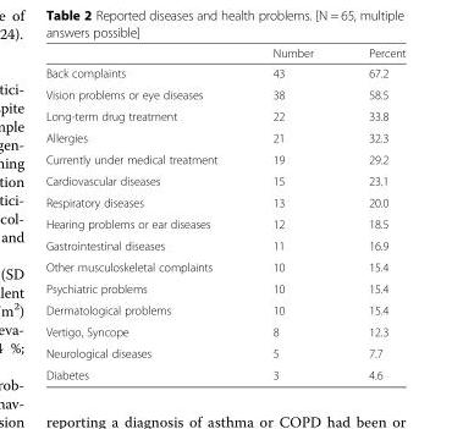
<table><thead><tr><td></td><td>Number</td><td>Percent</td></tr></thead><tbody><tr><td>Back complaints</td><td>43</td><td>67.2</td></tr><tr><td>Vision problems or eye diseases</td><td>38</td><td>58.5</td></tr><tr><td>Long-term drug treatment</td><td>22</td><td>33.8</td></tr><tr><td>Allergies</td><td>21</td><td>32.3</td></tr><tr><td>Currently under medical treatment</td><td>19</td><td>29.2</td></tr><tr><td>Cardiovascular diseases</td><td>15</td><td>23.1</td></tr><tr><td>Respiratory diseases</td><td>13</td><td>20.0</td></tr><tr><td>Hearing problems or ear diseases</td><td>12</td><td>18.5</td></tr><tr><td>Gastrointestinal diseases</td><td>11</td><td>16.9</td></tr><tr><td>Other musculoskeletal complaints</td><td>10</td><td>15.4</td></tr><tr><td>Psychiatric problems</td><td>10</td><td>15.4</td></tr><tr><td>Dermatological problems</td><td>10</td><td>15.4</td></tr><tr><td>Vertigo, Syncope</td><td>8</td><td>12.3</td></tr><tr><td>Neurological diseases</td><td>5</td><td>7.7</td></tr><tr><td>Diabetes</td><td>3</td><td>4.6</td></tr></tbody></table>